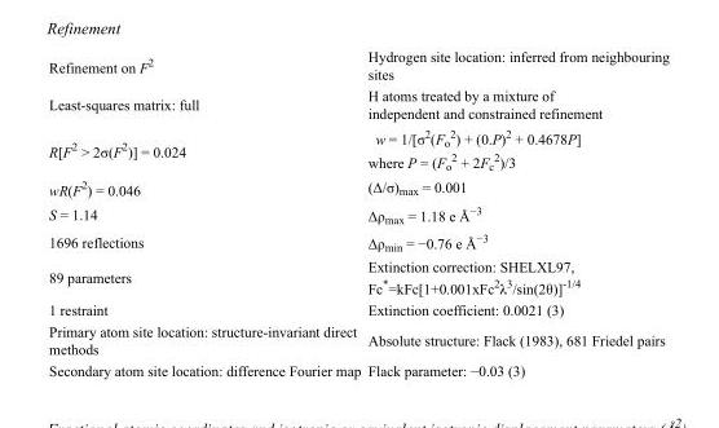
<table><tbody><tr><td>Refinement on F<sup>2</sup></td><td>Hydrogen site location: inferred from neighbouring sites</td></tr><tr><td>Least-squares matrix: full</td><td>H atoms treated by a mixture of independent and constrained refinement</td></tr><tr><td>R[F<sup>2</sup> &gt; 2σ(F<sup>2</sup>)] = 0.024</td><td>w = 1/[σ<sup>2</sup>(F<sub>o</sub> <sup>2</sup>) + (0.P)<sup>2</sup> + 0.4678P] where P = (F<sub>o</sub> <sup>2</sup> + 2F<sub>c</sub> <sup>2</sup>)/3</td></tr><tr><td>wR(F<sup>2</sup>) = 0.046</td><td>(Δ/σ)<sub>max</sub> = 0.001</td></tr><tr><td>S = 1.14</td><td>Δρ<sub>max</sub> = 1.18 e Å<sup>−3</sup></td></tr><tr><td>1696 reflections</td><td>Δρ<sub>min</sub> = −0.76 e Å<sup>−3</sup></td></tr><tr><td>89 parameters</td><td>Extinction correction: SHELXL97, Fc*=kFc[1+0.001xFc<sup>2</sup>λ<sup>3</sup>/sin(2θ)]<sup>-1/4</sup></td></tr><tr><td>1 restraint</td><td>Extinction coefficient: 0.0021 (3)</td></tr><tr><td>Primary atom site location: structure-invariant direct methods</td><td>Absolute structure: Flack (1983), 681 Friedel pairs</td></tr><tr><td>Secondary atom site location: difference Fourier map</td><td>Flack parameter: −0.03 (3)</td></tr></tbody></table>